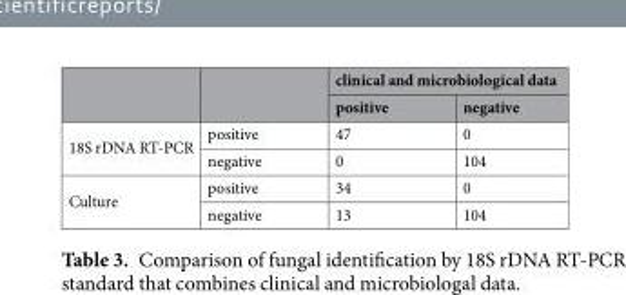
<table><thead><tr><td rowspan="2"></td><td rowspan="2"></td><td colspan="2">clinical and microbiological data</td></tr><tr><td>positive</td><td>negative</td></tr></thead><tbody><tr><td rowspan="2">18S rDNA RT-PCR</td><td>positive</td><td>47</td><td>0</td></tr><tr><td>negative</td><td>0</td><td>104</td></tr><tr><td rowspan="2">Culture</td><td>positive</td><td>34</td><td>0</td></tr><tr><td>negative</td><td>13</td><td>104</td></tr></tbody></table>